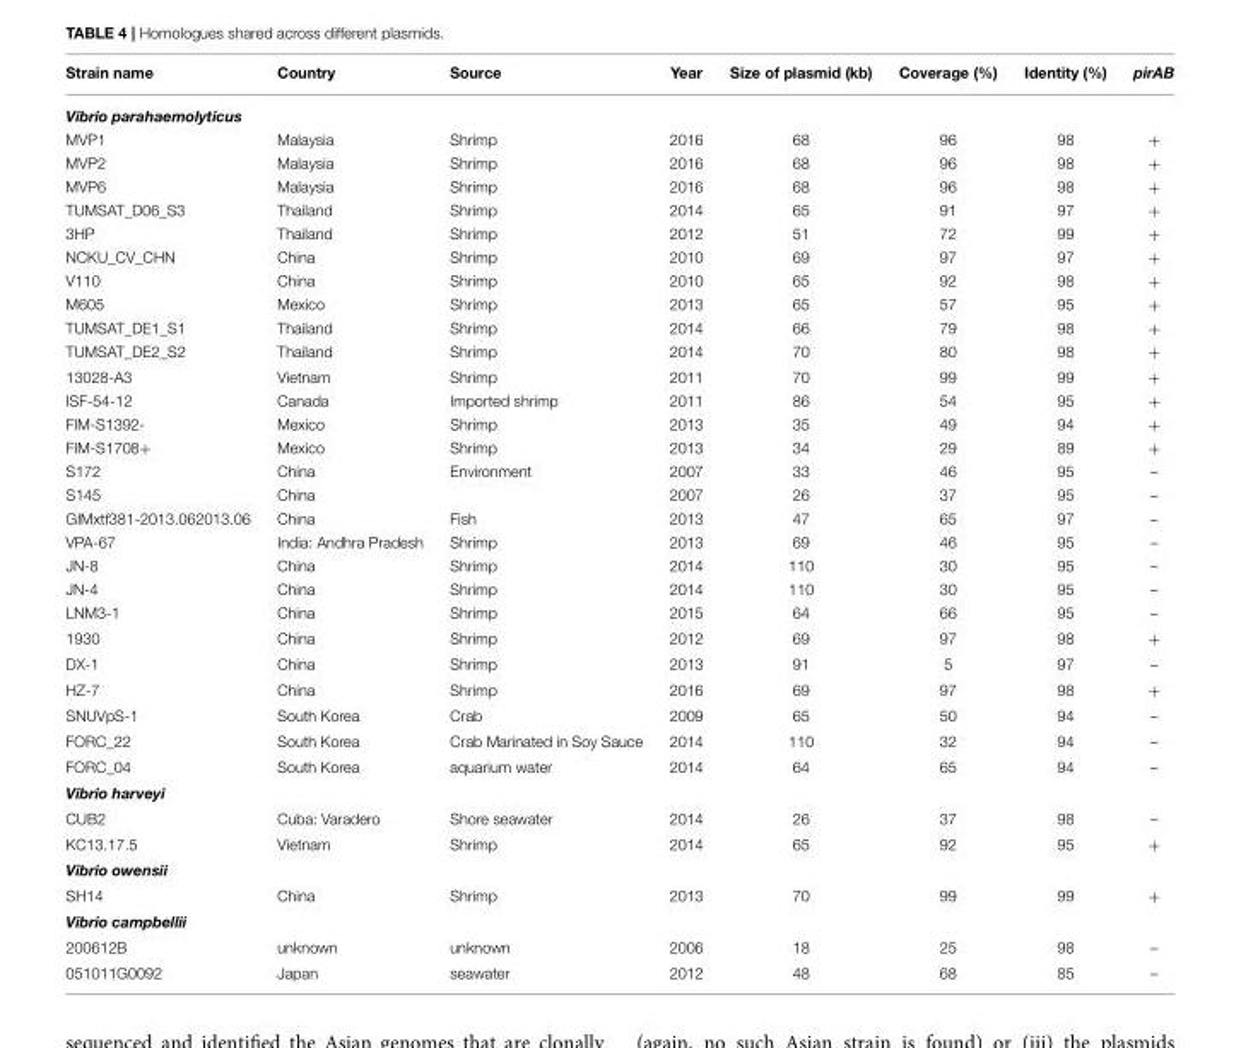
<table><thead><tr><td>Strain name</td><td>Country</td><td>Source</td><td>Year</td><td>Size of plasmid (kb)</td><td>Coverage (%)</td><td>Identity (%)</td><td>pirAB</td></tr></thead><tbody><tr><td colspan="8">Vibrio parahaemolyticus</td></tr><tr><td>MVP1</td><td>Malaysia</td><td>Shrimp</td><td>2016</td><td>68</td><td>96</td><td>98</td><td>+</td></tr><tr><td>MVP2</td><td>Malaysia</td><td>Shrimp</td><td>2016</td><td>68</td><td>96</td><td>98</td><td>+</td></tr><tr><td>MVP6</td><td>Malaysia</td><td>Shrimp</td><td>2016</td><td>68</td><td>96</td><td>98</td><td>+</td></tr><tr><td>TUMSAT_D06_S3</td><td>Thailand</td><td>Shrimp</td><td>2014</td><td>65</td><td>91</td><td>97</td><td>+</td></tr><tr><td>3HP</td><td>Thailand</td><td>Shrimp</td><td>2012</td><td>51</td><td>72</td><td>99</td><td>+</td></tr><tr><td>NCKU_CV_CHN</td><td>China</td><td>Shrimp</td><td>2010</td><td>69</td><td>97</td><td>97</td><td>+</td></tr><tr><td>V110</td><td>China</td><td>Shrimp</td><td>2010</td><td>65</td><td>92</td><td>98</td><td>+</td></tr><tr><td>M605</td><td>Mexico</td><td>Shrimp</td><td>2013</td><td>65</td><td>57</td><td>95</td><td>+</td></tr><tr><td>TUMSAT_DE1_S1</td><td>Thailand</td><td>Shrimp</td><td>2014</td><td>66</td><td>79</td><td>98</td><td>+</td></tr><tr><td>TUMSAT_DE2_S2</td><td>Thailand</td><td>Shrimp</td><td>2014</td><td>70</td><td>80</td><td>98</td><td>+</td></tr><tr><td>13028-A3</td><td>Vietnam</td><td>Shrimp</td><td>2011</td><td>70</td><td>99</td><td>99</td><td>+</td></tr><tr><td>ISF-54-12</td><td>Canada</td><td>Imported shrimp</td><td>2011</td><td>86</td><td>54</td><td>95</td><td>+</td></tr><tr><td>FIM-S1392-</td><td>Mexico</td><td>Shrimp</td><td>2013</td><td>35</td><td>49</td><td>94</td><td>+</td></tr><tr><td>FIM-S1708+</td><td>Mexico</td><td>Shrimp</td><td>2013</td><td>34</td><td>29</td><td>89</td><td>+</td></tr><tr><td>S172</td><td>China</td><td>Environment</td><td>2007</td><td>33</td><td>46</td><td>95</td><td>–</td></tr><tr><td>S145</td><td>China</td><td></td><td>2007</td><td>26</td><td>37</td><td>95</td><td>–</td></tr><tr><td>GIMxtf381-2013.062013.06</td><td>China</td><td>Fish</td><td>2013</td><td>47</td><td>65</td><td>97</td><td>–</td></tr><tr><td>VPA-67</td><td>India: Andhra Pradesh</td><td>Shrimp</td><td>2013</td><td>69</td><td>46</td><td>95</td><td>–</td></tr><tr><td>JN-8</td><td>China</td><td>Shrimp</td><td>2014</td><td>110</td><td>30</td><td>95</td><td>–</td></tr><tr><td>JN-4</td><td>China</td><td>Shrimp</td><td>2014</td><td>110</td><td>30</td><td>95</td><td>–</td></tr><tr><td>LNM3-1</td><td>China</td><td>Shrimp</td><td>2015</td><td>64</td><td>66</td><td>95</td><td>–</td></tr><tr><td>1930</td><td>China</td><td>Shrimp</td><td>2012</td><td>69</td><td>97</td><td>98</td><td>+</td></tr><tr><td>DX-1</td><td>China</td><td>Shrimp</td><td>2013</td><td>91</td><td>5</td><td>97</td><td>–</td></tr><tr><td>HZ-7</td><td>China</td><td>Shrimp</td><td>2016</td><td>69</td><td>97</td><td>98</td><td>+</td></tr><tr><td>SNUVpS-1</td><td>South Korea</td><td>Crab</td><td>2009</td><td>65</td><td>50</td><td>94</td><td>–</td></tr><tr><td>FORC_22</td><td>South Korea</td><td>Crab Marinated in Soy Sauce</td><td>2014</td><td>110</td><td>32</td><td>94</td><td>–</td></tr><tr><td>FORC_04</td><td>South Korea</td><td>aquarium water</td><td>2014</td><td>64</td><td>65</td><td>94</td><td>–</td></tr><tr><td colspan="8">Vibrio harveyi</td></tr><tr><td>CUB2</td><td>Cuba: Varadero</td><td>Shore seawater</td><td>2014</td><td>26</td><td>37</td><td>98</td><td>–</td></tr><tr><td>KC13.17.5</td><td>Vietnam</td><td>Shrimp</td><td>2014</td><td>65</td><td>92</td><td>95</td><td>+</td></tr><tr><td colspan="8">Vibrio owensii</td></tr><tr><td>SH14</td><td>China</td><td>Shrimp</td><td>2013</td><td>70</td><td>99</td><td>99</td><td>+</td></tr><tr><td colspan="8">Vibrio campbellii</td></tr><tr><td>200612B</td><td>unknown</td><td>unknown</td><td>2006</td><td>18</td><td>25</td><td>98</td><td>–</td></tr><tr><td>051011G0092</td><td>Japan</td><td>seawater</td><td>2012</td><td>48</td><td>68</td><td>85</td><td>–</td></tr></tbody></table>